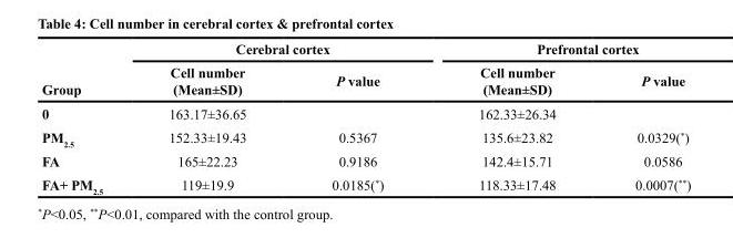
<table><thead><tr><td rowspan="2">Group</td><td colspan="2">Cerebral cortex</td><td colspan="2">Prefrontal cortex</td></tr><tr><td>Cell number (Mean±SD)</td><td>P value</td><td>Cell number (Mean±SD)</td><td>P value</td></tr></thead><tbody><tr><td>0</td><td>163.17±36.65</td><td></td><td>162.33±26.34</td><td></td></tr><tr><td>PM<sub>2.5</sub></td><td>152.33±19.43</td><td>0.5367</td><td>135.6±23.82</td><td>0.0329(*)</td></tr><tr><td>FA</td><td>165±22.23</td><td>0.9186</td><td>142.4±15.71</td><td>0.0586</td></tr><tr><td>FA+ PM<sub>2.5</sub></td><td>119±19.9</td><td>0.0185(*)</td><td>118.33±17.48</td><td>0.0007(**)</td></tr></tbody></table>